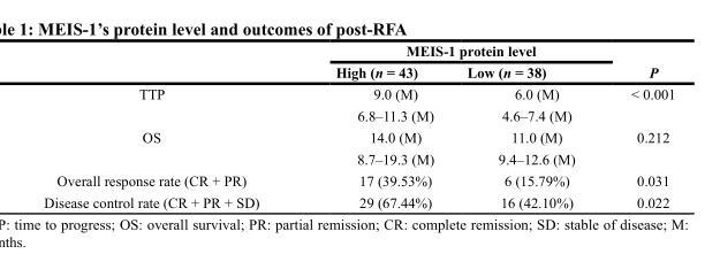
<table><thead><tr><td rowspan="2"></td><td colspan="2">MEIS-1 protein level</td><td rowspan="2">P</td></tr><tr><td>High (n = 43)</td><td>Low (n = 38)</td></tr></thead><tbody><tr><td rowspan="2">TTP</td><td>9.0 (M)</td><td>6.0 (M)</td><td>&lt; 0.001</td></tr><tr><td>6.8–11.3 (M)</td><td>4.6–7.4 (M)</td><td></td></tr><tr><td rowspan="2">OS</td><td>14.0 (M)</td><td>11.0 (M)</td><td>0.212</td></tr><tr><td>8.7–19.3 (M)</td><td>9.4–12.6 (M)</td><td></td></tr><tr><td>Overall response rate (CR + PR)</td><td>17 (39.53%)</td><td>6 (15.79%)</td><td>0.031</td></tr><tr><td>Disease control rate (CR + PR + SD)</td><td>29 (67.44%)</td><td>16 (42.10%)</td><td>0.022</td></tr></tbody></table>